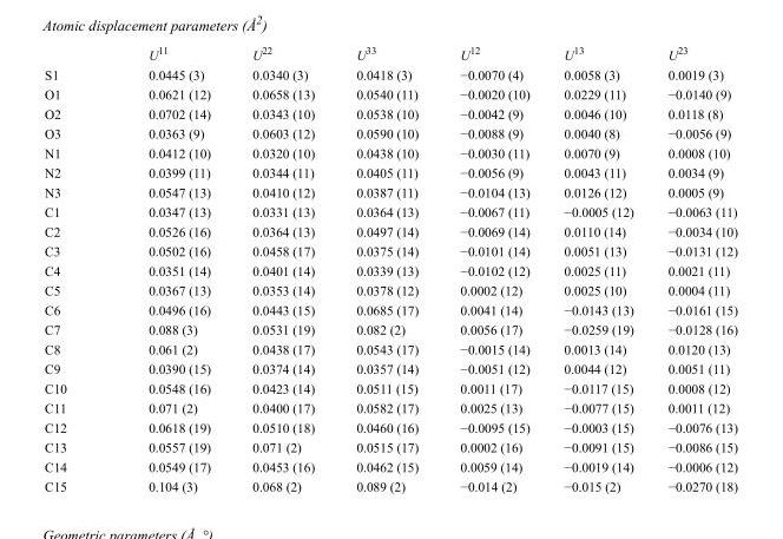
<table><thead><tr><td></td><td>U<sup>11</sup></td><td>U<sup>22</sup></td><td>U<sup>33</sup></td><td>U<sup>12</sup></td><td>U<sup>13</sup></td><td>U<sup>23</sup></td></tr></thead><tbody><tr><td>S1</td><td>0.0445 (3)</td><td>0.0340 (3)</td><td>0.0418 (3)</td><td>−0.0070 (4)</td><td>0.0058 (3)</td><td>0.0019 (3)</td></tr><tr><td>O1</td><td>0.0621 (12)</td><td>0.0658 (13)</td><td>0.0540 (11)</td><td>−0.0020 (10)</td><td>0.0229 (11)</td><td>−0.0140 (9)</td></tr><tr><td>O2</td><td>0.0702 (14)</td><td>0.0343 (10)</td><td>0.0538 (10)</td><td>−0.0042 (9)</td><td>0.0046 (10)</td><td>0.0118 (8)</td></tr><tr><td>O3</td><td>0.0363 (9)</td><td>0.0603 (12)</td><td>0.0590 (10)</td><td>−0.0088 (9)</td><td>0.0040 (8)</td><td>−0.0056 (9)</td></tr><tr><td>N1</td><td>0.0412 (10)</td><td>0.0320 (10)</td><td>0.0438 (10)</td><td>−0.0030 (11)</td><td>0.0070 (9)</td><td>0.0008 (10)</td></tr><tr><td>N2</td><td>0.0399 (11)</td><td>0.0344 (11)</td><td>0.0405 (11)</td><td>−0.0056 (9)</td><td>0.0043 (11)</td><td>0.0034 (9)</td></tr><tr><td>N3</td><td>0.0547 (13)</td><td>0.0410 (12)</td><td>0.0387 (11)</td><td>−0.0104 (13)</td><td>0.0126 (12)</td><td>0.0005 (9)</td></tr><tr><td>C1</td><td>0.0347 (13)</td><td>0.0331 (13)</td><td>0.0364 (13)</td><td>−0.0067 (11)</td><td>−0.0005 (12)</td><td>−0.0063 (11)</td></tr><tr><td>C2</td><td>0.0526 (16)</td><td>0.0364 (13)</td><td>0.0497 (14)</td><td>−0.0069 (14)</td><td>0.0110 (14)</td><td>−0.0034 (10)</td></tr><tr><td>C3</td><td>0.0502 (16)</td><td>0.0458 (17)</td><td>0.0375 (14)</td><td>−0.0101 (14)</td><td>0.0051 (13)</td><td>−0.0131 (12)</td></tr><tr><td>C4</td><td>0.0351 (14)</td><td>0.0401 (14)</td><td>0.0339 (13)</td><td>−0.0102 (12)</td><td>0.0025 (11)</td><td>0.0021 (11)</td></tr><tr><td>C5</td><td>0.0367 (13)</td><td>0.0353 (14)</td><td>0.0378 (12)</td><td>0.0002 (12)</td><td>0.0025 (10)</td><td>0.0004 (11)</td></tr><tr><td>C6</td><td>0.0496 (16)</td><td>0.0443 (15)</td><td>0.0685 (17)</td><td>0.0041 (14)</td><td>−0.0143 (13)</td><td>−0.0161 (15)</td></tr><tr><td>C7</td><td>0.088 (3)</td><td>0.0531 (19)</td><td>0.082 (2)</td><td>0.0056 (17)</td><td>−0.0259 (19)</td><td>−0.0128 (16)</td></tr><tr><td>C8</td><td>0.061 (2)</td><td>0.0438 (17)</td><td>0.0543 (17)</td><td>−0.0015 (14)</td><td>0.0013 (14)</td><td>0.0120 (13)</td></tr><tr><td>C9</td><td>0.0390 (15)</td><td>0.0374 (14)</td><td>0.0357 (14)</td><td>−0.0051 (12)</td><td>0.0044 (12)</td><td>0.0051 (11)</td></tr><tr><td>C10</td><td>0.0548 (16)</td><td>0.0423 (14)</td><td>0.0511 (15)</td><td>0.0011 (17)</td><td>−0.0117 (15)</td><td>0.0008 (12)</td></tr><tr><td>C11</td><td>0.071 (2)</td><td>0.0400 (17)</td><td>0.0582 (17)</td><td>0.0025 (13)</td><td>−0.0077 (15)</td><td>0.0011 (12)</td></tr><tr><td>C12</td><td>0.0618 (19)</td><td>0.0510 (18)</td><td>0.0460 (16)</td><td>−0.0095 (15)</td><td>−0.0003 (15)</td><td>−0.0076 (13)</td></tr><tr><td>C13</td><td>0.0557 (19)</td><td>0.071 (2)</td><td>0.0515 (17)</td><td>0.0002 (16)</td><td>−0.0091 (15)</td><td>−0.0086 (15)</td></tr><tr><td>C14</td><td>0.0549 (17)</td><td>0.0453 (16)</td><td>0.0462 (15)</td><td>0.0059 (14)</td><td>−0.0019 (14)</td><td>−0.0006 (12)</td></tr><tr><td>C15</td><td>0.104 (3)</td><td>0.068 (2)</td><td>0.089 (2)</td><td>−0.014 (2)</td><td>−0.015 (2)</td><td>−0.0270 (18)</td></tr></tbody></table>